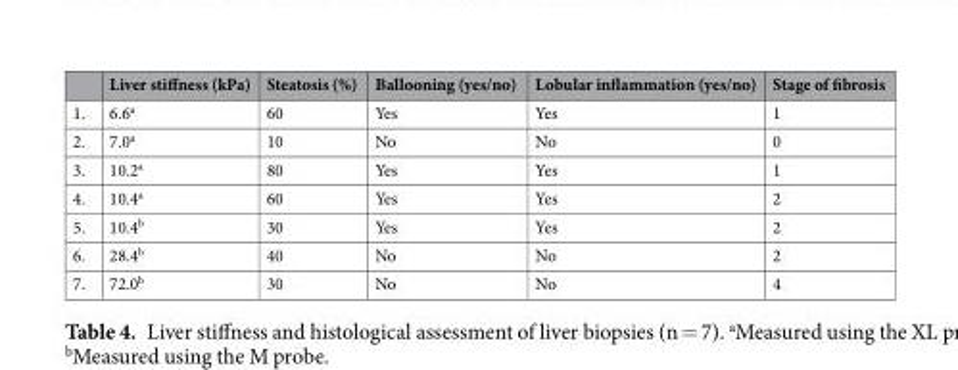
<table><thead><tr><td></td><td>Liver stiffness (kPa)</td><td>Steatosis (%)</td><td>Ballooning (yes/no)</td><td>Lobular inflammation (yes/no)</td><td>Stage of fibrosis</td></tr></thead><tbody><tr><td>1.</td><td>6.6<sup>a</sup></td><td>60</td><td>Yes</td><td>Yes</td><td>1</td></tr><tr><td>2.</td><td>7.0<sup>a</sup></td><td>10</td><td>No</td><td>No</td><td>0</td></tr><tr><td>3.</td><td>10.2<sup>a</sup></td><td>80</td><td>Yes</td><td>Yes</td><td>1</td></tr><tr><td>4.</td><td>10.4<sup>a</sup></td><td>60</td><td>Yes</td><td>Yes</td><td>2</td></tr><tr><td>5.</td><td>10.4<sup>b</sup></td><td>30</td><td>Yes</td><td>Yes</td><td>2</td></tr><tr><td>6.</td><td>28.4<sup>b</sup></td><td>40</td><td>No</td><td>No</td><td>2</td></tr><tr><td>7.</td><td>72.0<sup>b</sup></td><td>30</td><td>No</td><td>No</td><td>4</td></tr></tbody></table>